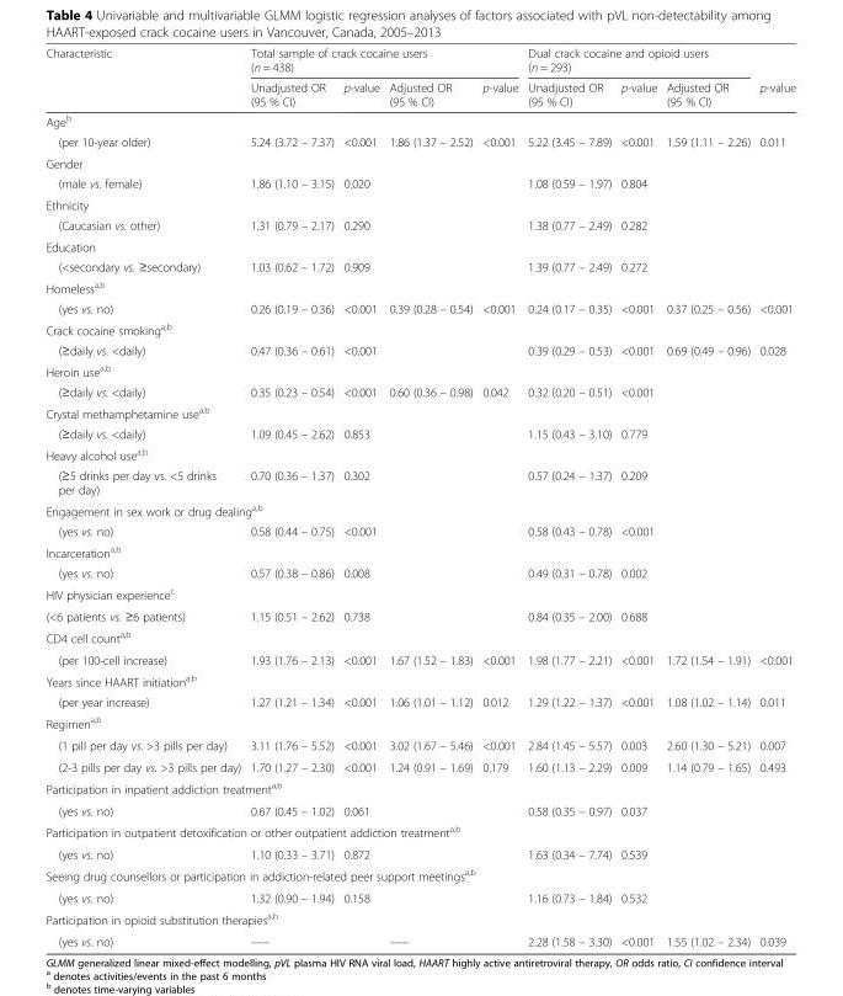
<table><thead><tr><td rowspan="2">Characteristic</td><td colspan="4">Total sample of crack cocaine users (n = 438)</td><td colspan="3">Dual crack cocaine and opioid users (n = 293)</td><td rowspan="2">p-value</td></tr><tr><td>Unadjusted OR (95 % CI)</td><td>p-value</td><td>Adjusted OR (95 % CI)</td><td>p-value</td><td>Unadjusted OR (95 % CI)</td><td>p-value</td><td>Adjusted OR (95 % CI)</td></tr></thead><tbody><tr><td colspan="9">Age<sup>b</sup></td></tr><tr><td>(per 10-year older)</td><td>5.24 (3.72 – 7.37)</td><td>&lt;0.001</td><td>1.86 (1.37 – 2.52)</td><td>&lt;0.001</td><td>5.22 (3.45 – 7.89)</td><td>&lt;0.001</td><td>1.59 (1.11 – 2.26)</td><td>0.011</td></tr><tr><td colspan="9">Gender</td></tr><tr><td>(male vs. female)</td><td>1.86 (1.10 – 3.15)</td><td>0.020</td><td></td><td></td><td>1.08 (0.59 – 1.97)</td><td>0.804</td><td></td><td></td></tr><tr><td colspan="9">Ethnicity</td></tr><tr><td>(Caucasian vs. other)</td><td>1.31 (0.79 – 2.17)</td><td>0.290</td><td></td><td></td><td>1.38 (0.77 – 2.49)</td><td>0.282</td><td></td><td></td></tr><tr><td colspan="9">Education</td></tr><tr><td>(&lt;secondary vs. ≥secondary)</td><td>1.03 (0.62 – 1.72)</td><td>0.909</td><td></td><td></td><td>1.39 (0.77 – 2.49)</td><td>0.272</td><td></td><td></td></tr><tr><td colspan="9">Homeless<sup>a,b</sup></td></tr><tr><td>(yes vs. no)</td><td>0.26 (0.19 – 0.36)</td><td>&lt;0.001</td><td>0.39 (0.28 – 0.54)</td><td>&lt;0.001</td><td>0.24 (0.17 – 0.35)</td><td>&lt;0.001</td><td>0.37 (0.25 – 0.56)</td><td>&lt;0.001</td></tr><tr><td colspan="9">Crack cocaine smoking<sup>a,b</sup></td></tr><tr><td>(≥daily vs. &lt;daily)</td><td>0.47 (0.36 – 0.61)</td><td>&lt;0.001</td><td></td><td></td><td>0.39 (0.29 – 0.53)</td><td>&lt;0.001</td><td>0.69 (0.49 – 0.96)</td><td>0.028</td></tr><tr><td colspan="9">Heroin use<sup>a,b</sup></td></tr><tr><td>(≥daily vs. &lt;daily)</td><td>0.35 (0.23 – 0.54)</td><td>&lt;0.001</td><td>0.60 (0.36 – 0.98)</td><td>0.042</td><td>0.32 (0.20 – 0.51)</td><td>&lt;0.001</td><td></td><td></td></tr><tr><td colspan="9">Crystal methamphetamine use<sup>a,b</sup></td></tr><tr><td>(≥daily vs. &lt;daily)</td><td>1.09 (0.45 – 2.62)</td><td>0.853</td><td></td><td></td><td>1.15 (0.43 – 3.10)</td><td>0.779</td><td></td><td></td></tr><tr><td colspan="9">Heavy alcohol use<sup>a,b</sup></td></tr><tr><td>(≥5 drinks per day vs. &lt;5 drinks per day)</td><td>0.70 (0.36 – 1.37)</td><td>0.302</td><td></td><td></td><td>0.57 (0.24 – 1.37)</td><td>0.209</td><td></td><td></td></tr><tr><td colspan="9">Engagement in sex work or drug dealing<sup>a,b</sup></td></tr><tr><td>(yes vs. no)</td><td>0.58 (0.44 – 0.75)</td><td>&lt;0.001</td><td></td><td></td><td>0.58 (0.43 – 0.78)</td><td>&lt;0.001</td><td></td><td></td></tr><tr><td colspan="9">Incarceration<sup>a,b</sup></td></tr><tr><td>(yes vs. no)</td><td>0.57 (0.38 – 0.86)</td><td>0.008</td><td></td><td></td><td>0.49 (0.31 – 0.78)</td><td>0.002</td><td></td><td></td></tr><tr><td colspan="9">HIV physician experience<sup>c</sup></td></tr><tr><td>(&lt;6 patients vs. ≥6 patients)</td><td>1.15 (0.51 – 2.62)</td><td>0.738</td><td></td><td></td><td>0.84 (0.35 – 2.00)</td><td>0.688</td><td></td><td></td></tr><tr><td colspan="9">CD4 cell count<sup>a,b</sup></td></tr><tr><td>(per 100-cell increase)</td><td>1.93 (1.76 – 2.13)</td><td>&lt;0.001</td><td>1.67 (1.52 – 1.83)</td><td>&lt;0.001</td><td>1.98 (1.77 – 2.21)</td><td>&lt;0.001</td><td>1.72 (1.54 – 1.91)</td><td>&lt;0.001</td></tr><tr><td colspan="9">Years since HAART initiation<sup>a,b</sup></td></tr><tr><td>(per year increase)</td><td>1.27 (1.21 – 1.34)</td><td>&lt;0.001</td><td>1.06 (1.01 – 1.12)</td><td>0.012</td><td>1.29 (1.22 – 1.37)</td><td>&lt;0.001</td><td>1.08 (1.02 – 1.14)</td><td>0.011</td></tr><tr><td colspan="9">Regimen<sup>a,b</sup></td></tr><tr><td>(1 pill per day vs. &gt;3 pills per day)</td><td>3.11 (1.76 – 5.52)</td><td>&lt;0.001</td><td>3.02 (1.67 – 5.46)</td><td>&lt;0.001</td><td>2.84 (1.45 – 5.57)</td><td>0.003</td><td>2.60 (1.30 – 5.21)</td><td>0.007</td></tr><tr><td>(2-3 pills per day vs. &gt;3 pills per day)</td><td>1.70 (1.27 – 2.30)</td><td>&lt;0.001</td><td>1.24 (0.91 – 1.69)</td><td>0.179</td><td>1.60 (1.13 – 2.29)</td><td>0.009</td><td>1.14 (0.79 – 1.65)</td><td>0.493</td></tr><tr><td colspan="9">Participation in inpatient addiction treatment<sup>a,b</sup></td></tr><tr><td>(yes vs. no)</td><td>0.67 (0.45 – 1.02)</td><td>0.061</td><td></td><td></td><td>0.58 (0.35 – 0.97)</td><td>0.037</td><td></td><td></td></tr><tr><td colspan="9">Participation in outpatient detoxification or other outpatient addiction treatment<sup>a,b</sup></td></tr><tr><td>(yes vs. no)</td><td>1.10 (0.33 – 3.71)</td><td>0.872</td><td></td><td></td><td>1.63 (0.34 – 7.74)</td><td>0.539</td><td></td><td></td></tr><tr><td colspan="9">Seeing drug counsellors or participation in addiction-related peer support meetings<sup>a,b</sup></td></tr><tr><td>(yes vs. no)</td><td>1.32 (0.90 – 1.94)</td><td>0.158</td><td></td><td></td><td>1.16 (0.73 – 1.84)</td><td>0.532</td><td></td><td></td></tr><tr><td colspan="9">Participation in opioid substitution therapies<sup>a,b</sup></td></tr><tr><td>(yes vs. no)</td><td>–––</td><td></td><td>–––</td><td></td><td>2.28 (1.58 – 3.30)</td><td>&lt;0.001</td><td>1.55 (1.02 – 2.34)</td><td>0.039</td></tr></tbody></table>